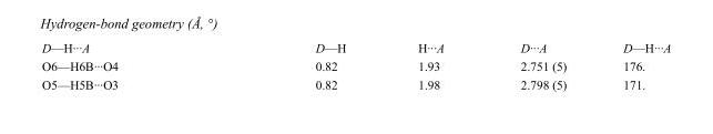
<table><tbody><tr><td>D—H···A</td><td>D—H</td><td>H···A</td><td>D···A</td><td>D—H···A</td></tr><tr><td>O6—H6B···O4</td><td>0.82</td><td>1.93</td><td>2.751 (5)</td><td>176.</td></tr><tr><td>O5—H5B···O3</td><td>0.82</td><td>1.98</td><td>2.798 (5)</td><td>171.</td></tr></tbody></table>